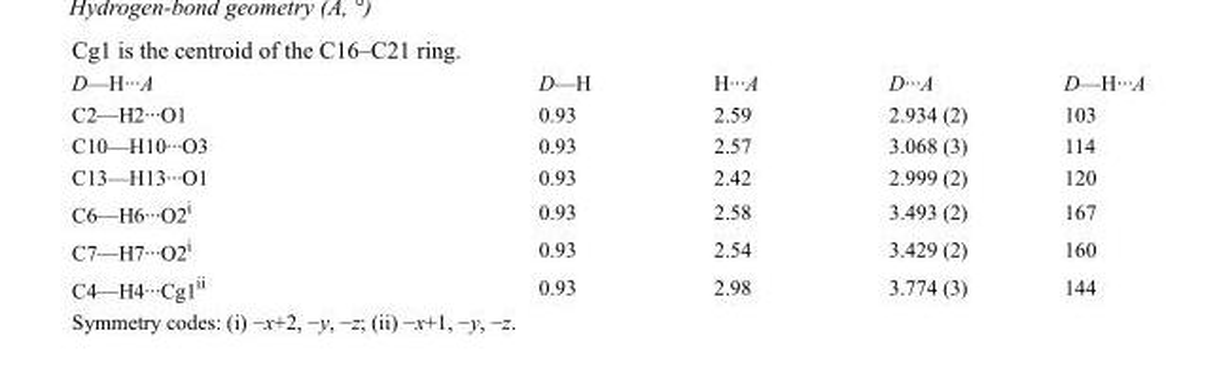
<table><tbody><tr><td>D—H···A</td><td>D—H</td><td>H···A</td><td>D···A</td><td>D—H···A</td></tr><tr><td>C2—H2···O1</td><td>0.93</td><td>2.59</td><td>2.934 (2)</td><td>103</td></tr><tr><td>C10—H10···O3</td><td>0.93</td><td>2.57</td><td>3.068 (3)</td><td>114</td></tr><tr><td>C13—H13···O1</td><td>0.93</td><td>2.42</td><td>2.999 (2)</td><td>120</td></tr><tr><td>C6—H6···O2<sup>i</sup></td><td>0.93</td><td>2.58</td><td>3.493 (2)</td><td>167</td></tr><tr><td>C7—H7···O2<sup>i</sup></td><td>0.93</td><td>2.54</td><td>3.429 (2)</td><td>160</td></tr><tr><td>C4—H4···Cg1<sup>ii</sup></td><td>0.93</td><td>2.98</td><td>3.774 (3)</td><td>144</td></tr></tbody></table>